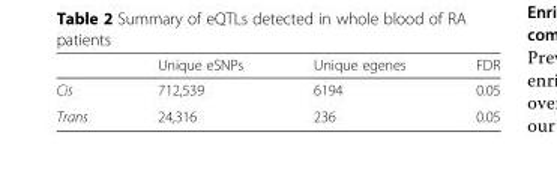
<table><thead><tr><td></td><td>Unique eSNPs</td><td>Unique egenes</td><td>FDR</td></tr></thead><tbody><tr><td>Cis</td><td>712,539</td><td>6194</td><td>0.05</td></tr><tr><td>Trans</td><td>24,316</td><td>236</td><td>0.05</td></tr></tbody></table>